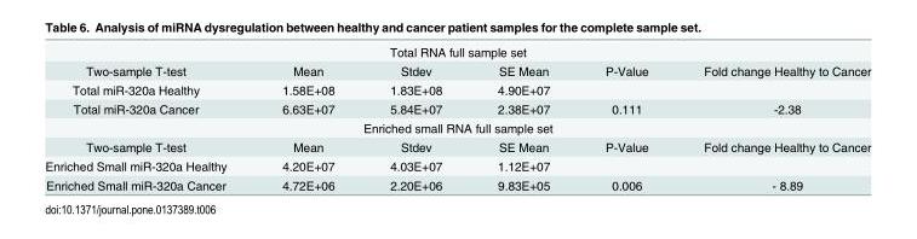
<table><tbody><tr><td colspan="6">Total RNA full sample set</td></tr><tr><td>Two-sample T-test</td><td>Mean</td><td>Stdev</td><td>SE Mean</td><td>P-Value</td><td>Fold change Healthy to Cancer</td></tr><tr><td>Total miR-320a Healthy</td><td>1.58E+08</td><td>1.83E+08</td><td>4.90E+07</td><td></td><td></td></tr><tr><td>Total miR-320a Cancer</td><td>6.63E+07</td><td>5.84E+07</td><td>2.38E+07</td><td>0.111</td><td>-2.38</td></tr><tr><td colspan="6">Enriched small RNA full sample set</td></tr><tr><td>Two-sample T-test</td><td>Mean</td><td>Stdev</td><td>SE Mean</td><td>P-Value</td><td>Fold change Healthy to Cancer</td></tr><tr><td>Enriched Small miR-320a Healthy</td><td>4.20E+07</td><td>4.03E+07</td><td>1.12E+07</td><td></td><td></td></tr><tr><td>Enriched Small miR-320a Cancer</td><td>4.72E+06</td><td>2.20E+06</td><td>9.83E+05</td><td>0.006</td><td>- 8.89</td></tr></tbody></table>